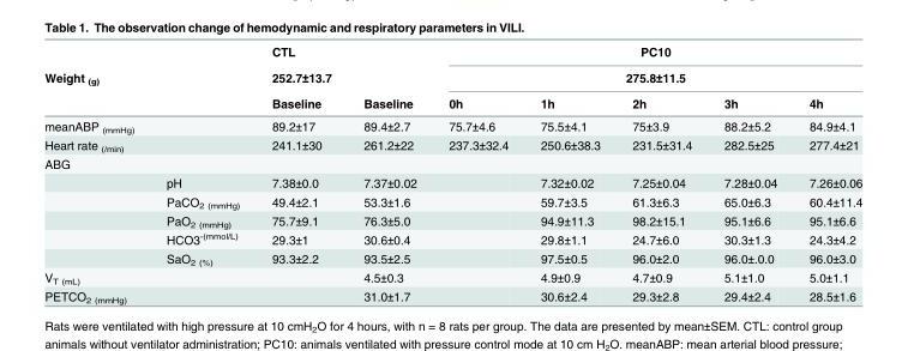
<table><thead><tr><td rowspan="3">Weight <sub>(g)</sub></td><td rowspan="3"></td><td rowspan="3">CTL 252.7±13.7 Baseline</td><td rowspan="3">Baseline</td><td rowspan="2" colspan="5">PC10 275.8±11.5</td></tr><tr></tr><tr><td>0h</td><td>1h</td><td>2h</td><td>3h</td><td>4h</td></tr></thead><tbody><tr><td>meanABP <sub>(mmHg)</sub></td><td></td><td>89.2±17</td><td>89.4±2.7</td><td>75.7±4.6</td><td>75.5±4.1</td><td>75±3.9</td><td>88.2±5.2</td><td>84.9±4.1</td></tr><tr><td>Heart rate <sub>(/min)</sub></td><td></td><td>241.1±30</td><td>261.2±22</td><td>237.3±32.4</td><td>250.6±38.3</td><td>231.5±31.4</td><td>282.5±25</td><td>277.4±21</td></tr><tr><td colspan="9">ABG</td></tr><tr><td></td><td>pH</td><td>7.38±0.0</td><td>7.37±0.02</td><td></td><td>7.32±0.02</td><td>7.25±0.04</td><td>7.28±0.04</td><td>7.26±0.06</td></tr><tr><td></td><td>PaCO<sub>2 (mmHg)</sub></td><td>49.4±2.1</td><td>53.3±1.6</td><td></td><td>59.7±3.5</td><td>61.3±6.3</td><td>65.0±6.3</td><td>60.4±11.4</td></tr><tr><td></td><td>PaO<sub>2 (mmHg)</sub></td><td>75.7±9.1</td><td>76.3±5.0</td><td></td><td>94.9±11.3</td><td>98.2±15.1</td><td>95.1±6.6</td><td>95.1±6.6</td></tr><tr><td></td><td>HCO3<sup>-(mmol/L)</sup></td><td>29.3±1</td><td>30.6±0.4</td><td></td><td>29.8±1.1</td><td>24.7±6.0</td><td>30.3±1.3</td><td>24.3±4.2</td></tr><tr><td></td><td>SaO<sub>2 (%)</sub></td><td>93.3±2.2</td><td>93.5±2.5</td><td></td><td>97.5±0.5</td><td>96.0±2.0</td><td>96.0±.0.0</td><td>96.0±3.0</td></tr><tr><td>V<sub>T (mL)</sub></td><td></td><td></td><td>4.5±0.3</td><td></td><td>4.9±0.9</td><td>4.7±0.9</td><td>5.1±1.0</td><td>5.0±1.1</td></tr><tr><td>PETCO<sub>2 (mmHg)</sub></td><td></td><td></td><td>31.0±1.7</td><td></td><td>30.6±2.4</td><td>29.3±2.8</td><td>29.4±2.4</td><td>28.5±1.6</td></tr></tbody></table>